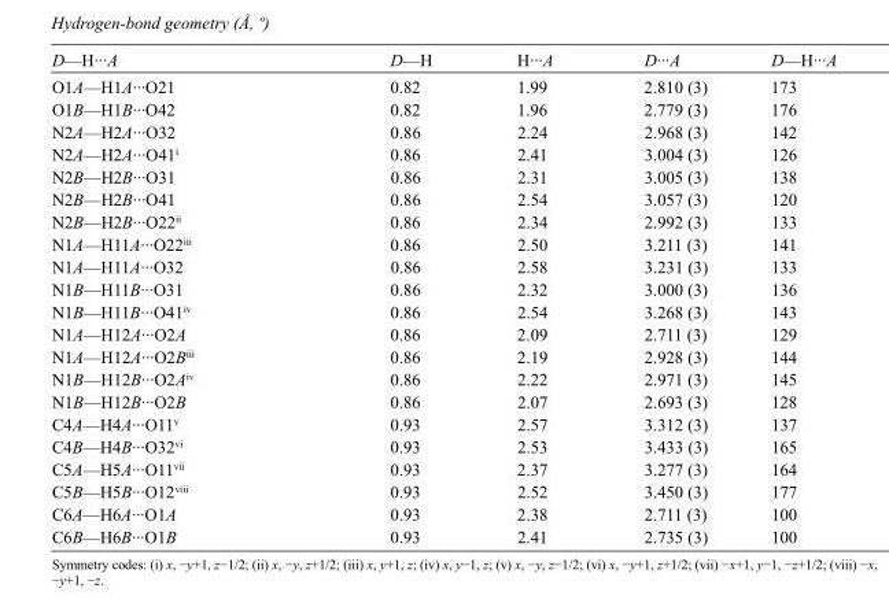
<table><tbody><tr><td>D—H···A</td><td>D—H</td><td>H···A</td><td>D···A</td><td>D—H···A</td></tr><tr><td>O1A—H1A···O21</td><td>0.82</td><td>1.99</td><td>2.810 (3)</td><td>173</td></tr><tr><td>O1B—H1B···O42</td><td>0.82</td><td>1.96</td><td>2.779 (3)</td><td>176</td></tr><tr><td>N2A—H2A···O32</td><td>0.86</td><td>2.24</td><td>2.968 (3)</td><td>142</td></tr><tr><td>N2A—H2A···O41<sup>i</sup></td><td>0.86</td><td>2.41</td><td>3.004 (3)</td><td>126</td></tr><tr><td>N2B—H2B···O31</td><td>0.86</td><td>2.31</td><td>3.005 (3)</td><td>138</td></tr><tr><td>N2B—H2B···O41</td><td>0.86</td><td>2.54</td><td>3.057 (3)</td><td>120</td></tr><tr><td>N2B—H2B···O22<sup>ii</sup></td><td>0.86</td><td>2.34</td><td>2.992 (3)</td><td>133</td></tr><tr><td>N1A—H11A···O22<sup>iii</sup></td><td>0.86</td><td>2.50</td><td>3.211 (3)</td><td>141</td></tr><tr><td>N1A—H11A···O32</td><td>0.86</td><td>2.58</td><td>3.231 (3)</td><td>133</td></tr><tr><td>N1B—H11B···O31</td><td>0.86</td><td>2.32</td><td>3.000 (3)</td><td>136</td></tr><tr><td>N1B—H11B···O41<sup>iv</sup></td><td>0.86</td><td>2.54</td><td>3.268 (3)</td><td>143</td></tr><tr><td>N1A—H12A···O2A</td><td>0.86</td><td>2.09</td><td>2.711 (3)</td><td>129</td></tr><tr><td>N1A—H12A···O2B<sup>iii</sup></td><td>0.86</td><td>2.19</td><td>2.928 (3)</td><td>144</td></tr><tr><td>N1B—H12B···O2A<sup>iv</sup></td><td>0.86</td><td>2.22</td><td>2.971 (3)</td><td>145</td></tr><tr><td>N1B—H12B···O2B</td><td>0.86</td><td>2.07</td><td>2.693 (3)</td><td>128</td></tr><tr><td>C4A—H4A···O11<sup>v</sup></td><td>0.93</td><td>2.57</td><td>3.312 (3)</td><td>137</td></tr><tr><td>C4B—H4B···O32<sup>vi</sup></td><td>0.93</td><td>2.53</td><td>3.433 (3)</td><td>165</td></tr><tr><td>C5A—H5A···O11<sup>vii</sup></td><td>0.93</td><td>2.37</td><td>3.277 (3)</td><td>164</td></tr><tr><td>C5B—H5B···O12<sup>viii</sup></td><td>0.93</td><td>2.52</td><td>3.450 (3)</td><td>177</td></tr><tr><td>C6A—H6A···O1A</td><td>0.93</td><td>2.38</td><td>2.711 (3)</td><td>100</td></tr><tr><td>C6B—H6B···O1B</td><td>0.93</td><td>2.41</td><td>2.735 (3)</td><td>100</td></tr></tbody></table>